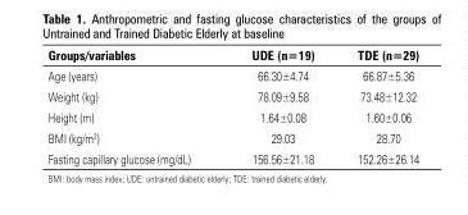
<table><thead><tr><td>Groups/variables</td><td>UDE (n=19)</td><td>TDE (n=29)</td></tr></thead><tbody><tr><td>Age (years)</td><td>66.30±4.74</td><td>66.87±5.36</td></tr><tr><td>Weight (kg)</td><td>78.09±9.58</td><td>73.48±12.32</td></tr><tr><td>Height (m)</td><td>1.64±0.08</td><td>1.60±0.06</td></tr><tr><td>BMI (kg/m<sup>2</sup>)</td><td>29.03</td><td>28.70</td></tr><tr><td>Fasting capillary glucose (mg/dL)</td><td>156.56±21.18</td><td>152.26±26.14</td></tr></tbody></table>